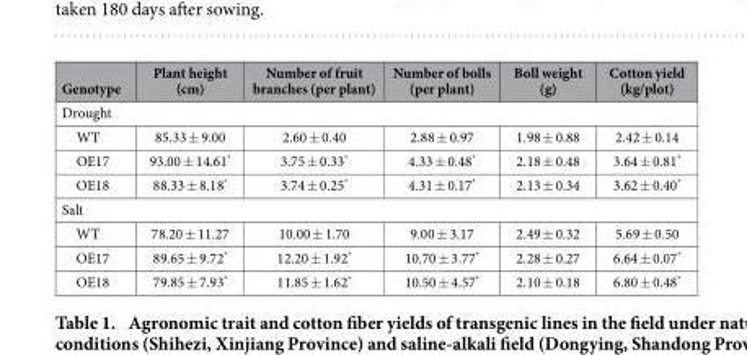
<table><thead><tr><td>Genotype</td><td>Plant height (cm)</td><td>Number of fruit branches (per plant)</td><td>Number of bolls (per plant)</td><td>Boll weight (g)</td><td>Cotton yield (kg/plot)</td></tr></thead><tbody><tr><td colspan="6">Drought</td></tr><tr><td>WT</td><td>85.33 ± 9.00</td><td>2.60 ± 0.40</td><td>2.88 ± 0.97</td><td>1.98 ± 0.88</td><td>2.42 ± 0.14</td></tr><tr><td>OE17</td><td>93.00 ± 14.61*</td><td>3.75 ± 0.33*</td><td>4.33 ± 0.48*</td><td>2.18 ± 0.48</td><td>3.64 ± 0.81*</td></tr><tr><td>OE18</td><td>88.33 ± 8.18*</td><td>3.74 ± 0.25*</td><td>4.31 ± 0.17*</td><td>2.13 ± 0.34</td><td>3.62 ± 0.40*</td></tr><tr><td colspan="6">Salt</td></tr><tr><td>WT</td><td>78.20 ± 11.27</td><td>10.00 ± 1.70</td><td>9.00 ± 3.17</td><td>2.49 ± 0.32</td><td>5.69 ± 0.50</td></tr><tr><td>OE17</td><td>89.65 ± 9.72*</td><td>12.20 ± 1.92*</td><td>10.70 ± 3.77*</td><td>2.28 ± 0.27</td><td>6.64 ± 0.07*</td></tr><tr><td>OE18</td><td>79.85 ± 7.93*</td><td>11.85 ± 1.62*</td><td>10.50 ± 4.57*</td><td>2.10 ± 0.18</td><td>6.80 ± 0.48*</td></tr></tbody></table>